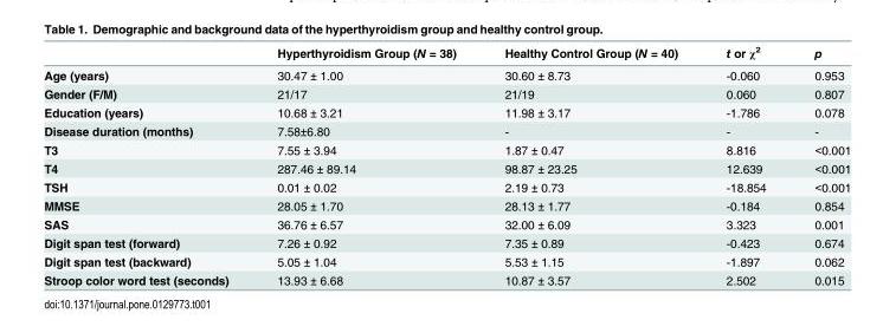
<table><thead><tr><td></td><td>Hyperthyroidism Group (N = 38)</td><td>Healthy Control Group (N = 40)</td><td>t or χ<sup>2</sup></td><td>p</td></tr></thead><tbody><tr><td>Age (years)</td><td>30.47 ± 1.00</td><td>30.60 ± 8.73</td><td>-0.060</td><td>0.953</td></tr><tr><td>Gender (F/M)</td><td>21/17</td><td>21/19</td><td>0.060</td><td>0.807</td></tr><tr><td>Education (years)</td><td>10.68 ± 3.21</td><td>11.98 ± 3.17</td><td>-1.786</td><td>0.078</td></tr><tr><td>Disease duration (months)</td><td>7.58±6.80</td><td>-</td><td>-</td><td>-</td></tr><tr><td>T3</td><td>7.55 ± 3.94</td><td>1.87 ± 0.47</td><td>8.816</td><td>&lt;0.001</td></tr><tr><td>T4</td><td>287.46 ± 89.14</td><td>98.87 ± 23.25</td><td>12.639</td><td>&lt;0.001</td></tr><tr><td>TSH</td><td>0.01 ± 0.02</td><td>2.19 ± 0.73</td><td>-18.854</td><td>&lt;0.001</td></tr><tr><td>MMSE</td><td>28.05 ± 1.70</td><td>28.13 ± 1.77</td><td>-0.184</td><td>0.854</td></tr><tr><td>SAS</td><td>36.76 ± 6.57</td><td>32.00 ± 6.09</td><td>3.323</td><td>0.001</td></tr><tr><td>Digit span test (forward)</td><td>7.26 ± 0.92</td><td>7.35 ± 0.89</td><td>-0.423</td><td>0.674</td></tr><tr><td>Digit span test (backward)</td><td>5.05 ± 1.04</td><td>5.53 ± 1.15</td><td>-1.897</td><td>0.062</td></tr><tr><td>Stroop color word test (seconds)</td><td>13.93 ± 6.68</td><td>10.87 ± 3.57</td><td>2.502</td><td>0.015</td></tr></tbody></table>